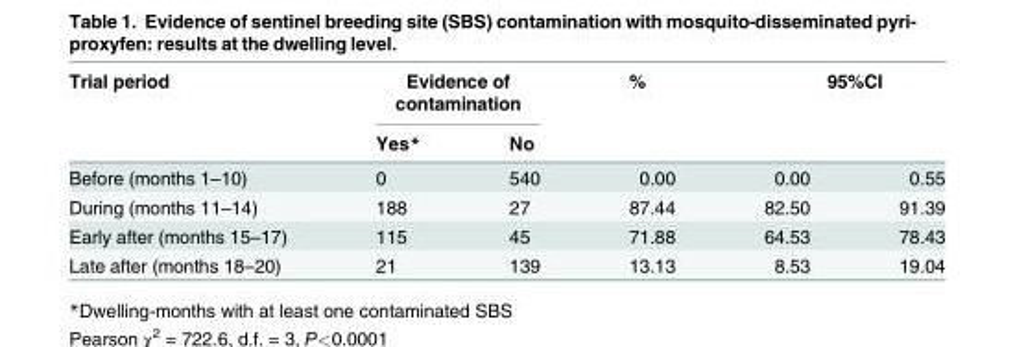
<table><thead><tr><td rowspan="2">Trial period</td><td colspan="2">Evidence of contamination</td><td rowspan="2">%</td><td colspan="2">95%CI</td></tr><tr><td>Yes*</td><td>No</td><td></td><td></td></tr></thead><tbody><tr><td>Before (months 1–10)</td><td>0</td><td>540</td><td>0.00</td><td>0.00</td><td>0.55</td></tr><tr><td>During (months 11–14)</td><td>188</td><td>27</td><td>87.44</td><td>82.50</td><td>91.39</td></tr><tr><td>Early after (months 15–17)</td><td>115</td><td>45</td><td>71.88</td><td>64.53</td><td>78.43</td></tr><tr><td>Late after (months 18–20)</td><td>21</td><td>139</td><td>13.13</td><td>8.53</td><td>19.04</td></tr></tbody></table>